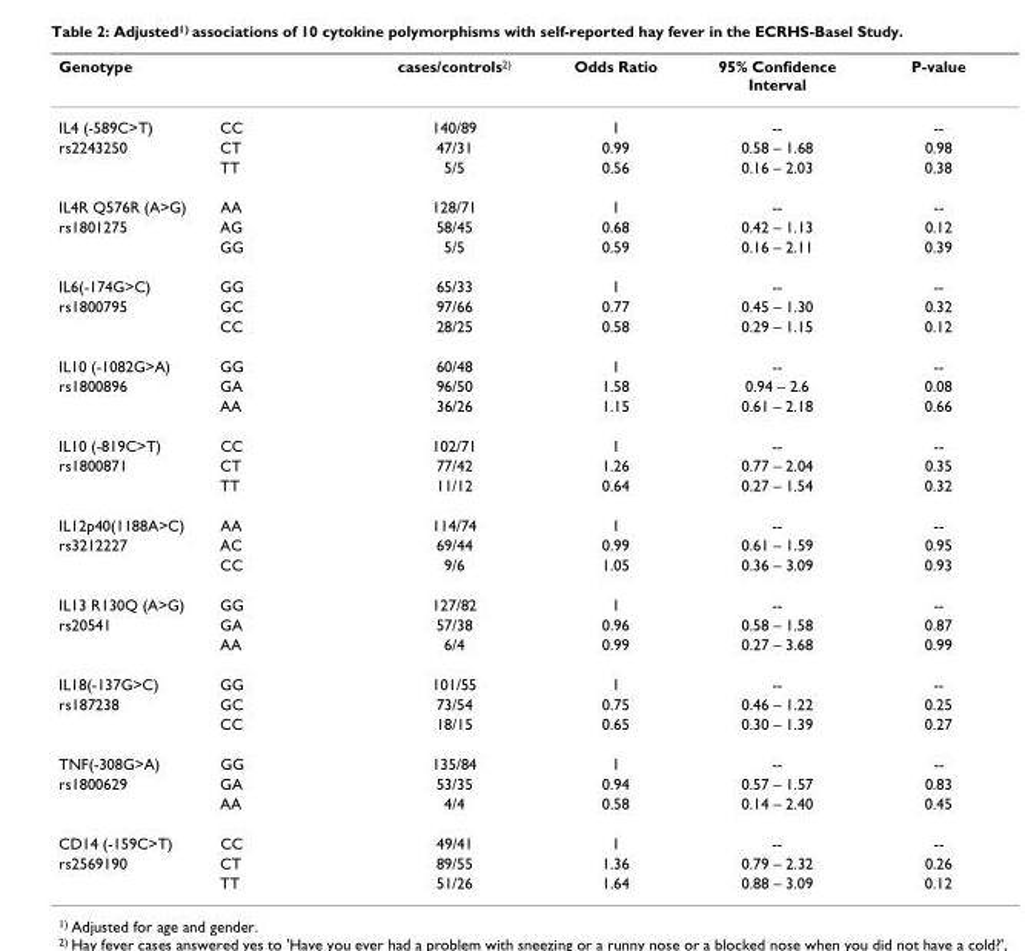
<table><thead><tr><td>Genotype</td><td></td><td>cases/controls<sup>2)</sup></td><td>Odds Ratio</td><td>95% Confidence Interval</td><td>P-value</td></tr></thead><tbody><tr><td>IL4 (-589C&gt;T)</td><td>CC</td><td>140/89</td><td>1</td><td>--</td><td>--</td></tr><tr><td rowspan="2">rs2243250</td><td>CT</td><td>47/31</td><td>0.99</td><td>0.58 – 1.68</td><td>0.98</td></tr><tr><td>TT</td><td>5/5</td><td>0.56</td><td>0.16 – 2.03</td><td>0.38</td></tr><tr><td>IL4R Q576R (A&gt;G)</td><td>AA</td><td>128/71</td><td>1</td><td>--</td><td>--</td></tr><tr><td rowspan="2">rs1801275</td><td>AG</td><td>58/45</td><td>0.68</td><td>0.42 – 1.13</td><td>0.12</td></tr><tr><td>GG</td><td>5/5</td><td>0.59</td><td>0.16 – 2.11</td><td>0.39</td></tr><tr><td>IL6(-174G&gt;C)</td><td>GG</td><td>65/33</td><td>1</td><td>--</td><td>--</td></tr><tr><td rowspan="2">rs1800795</td><td>GC</td><td>97/66</td><td>0.77</td><td>0.45 – 1.30</td><td>0.32</td></tr><tr><td>CC</td><td>28/25</td><td>0.58</td><td>0.29 – 1.15</td><td>0.12</td></tr><tr><td>IL10 (-1082G&gt;A)</td><td>GG</td><td>60/48</td><td>1</td><td>--</td><td>--</td></tr><tr><td rowspan="2">rs1800896</td><td>GA</td><td>96/50</td><td>1.58</td><td>0.94 – 2.6</td><td>0.08</td></tr><tr><td>AA</td><td>36/26</td><td>1.15</td><td>0.61 – 2.18</td><td>0.66</td></tr><tr><td>IL10 (-819C&gt;T)</td><td>CC</td><td>102/71</td><td>1</td><td>--</td><td>--</td></tr><tr><td rowspan="2">rs1800871</td><td>CT</td><td>77/42</td><td>1.26</td><td>0.77 – 2.04</td><td>0.35</td></tr><tr><td>TT</td><td>11/12</td><td>0.64</td><td>0.27 – 1.54</td><td>0.32</td></tr><tr><td>IL12p40(1188A&gt;C)</td><td>AA</td><td>114/74</td><td>1</td><td>--</td><td>--</td></tr><tr><td rowspan="2">rs3212227</td><td>AC</td><td>69/44</td><td>0.99</td><td>0.61 – 1.59</td><td>0.95</td></tr><tr><td>CC</td><td>9/6</td><td>1.05</td><td>0.36 – 3.09</td><td>0.93</td></tr><tr><td>IL13 R130Q (A&gt;G)</td><td>GG</td><td>127/82</td><td>1</td><td>--</td><td>--</td></tr><tr><td rowspan="2">rs20541</td><td>GA</td><td>57/38</td><td>0.96</td><td>0.58 – 1.58</td><td>0.87</td></tr><tr><td>AA</td><td>6/4</td><td>0.99</td><td>0.27 – 3.68</td><td>0.99</td></tr><tr><td>IL18(-137G&gt;C)</td><td>GG</td><td>101/55</td><td>1</td><td>--</td><td>--</td></tr><tr><td rowspan="2">rs187238</td><td>GC</td><td>73/54</td><td>0.75</td><td>0.46 – 1.22</td><td>0.25</td></tr><tr><td>CC</td><td>18/15</td><td>0.65</td><td>0.30 – 1.39</td><td>0.27</td></tr><tr><td>TNF(-308G&gt;A)</td><td>GG</td><td>135/84</td><td>1</td><td>--</td><td>--</td></tr><tr><td rowspan="2">rs1800629</td><td>GA</td><td>53/35</td><td>0.94</td><td>0.57 – 1.57</td><td>0.83</td></tr><tr><td>AA</td><td>4/4</td><td>0.58</td><td>0.14 – 2.40</td><td>0.45</td></tr><tr><td>CD14 (-159C&gt;T)</td><td>CC</td><td>49/41</td><td>1</td><td>--</td><td>--</td></tr><tr><td rowspan="2">rs2569190</td><td>CT</td><td>89/55</td><td>1.36</td><td>0.79 – 2.32</td><td>0.26</td></tr><tr><td>TT</td><td>51/26</td><td>1.64</td><td>0.88 – 3.09</td><td>0.12</td></tr></tbody></table>